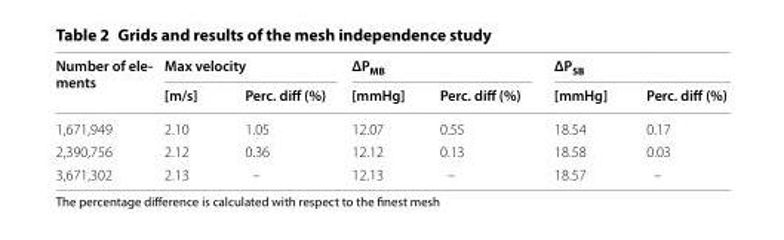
<table><thead><tr><td rowspan="2">Number of ele- ments</td><td colspan="2">Max velocity</td><td colspan="2">ΔP<sub>MB</sub></td><td colspan="2">ΔP<sub>SB</sub></td></tr><tr><td>[m/s]</td><td>Perc. diff (%)</td><td>[mmHg]</td><td>Perc. diff (%)</td><td>[mmHg]</td><td>Perc. diff (%)</td></tr></thead><tbody><tr><td>1,671,949</td><td>2.10</td><td>1.05</td><td>12.07</td><td>0.55</td><td>18.54</td><td>0.17</td></tr><tr><td>2,390,756</td><td>2.12</td><td>0.36</td><td>12.12</td><td>0.13</td><td>18.58</td><td>0.03</td></tr><tr><td>3,671,302</td><td>2.13</td><td>–</td><td>12.13</td><td>–</td><td>18.57</td><td>–</td></tr></tbody></table>